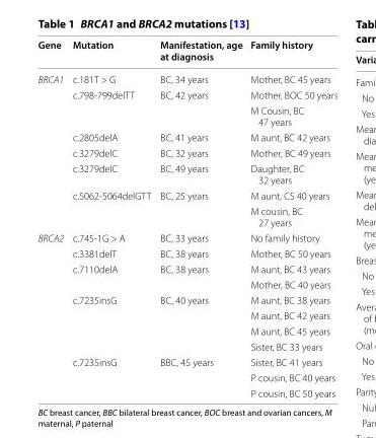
<table><thead><tr><td>Gene</td><td>Mutation</td><td>Manifestation, age at diagnosis</td><td>Family history</td></tr></thead><tbody><tr><td rowspan="8">BRCA1</td><td>c.181T &gt; G</td><td>BC, 34 years</td><td>Mother, BC 45 years</td></tr><tr><td>c.798-799delTT</td><td>BC, 42 years</td><td>Mother, BOC 50 years</td></tr><tr><td></td><td></td><td>M Cousin, BC 47 years</td></tr><tr><td>c.2805delA</td><td>BC, 41 years</td><td>M aunt, BC 42 years</td></tr><tr><td>c.3279delC</td><td>BC, 32 years</td><td>Mother, BC 49 years</td></tr><tr><td>c.3279delC</td><td>BC, 49 years</td><td>Daughter, BC 32 years</td></tr><tr><td>c.5062-5064delGTT</td><td>BC, 25 years</td><td>M aunt, CS 40 years</td></tr><tr><td></td><td></td><td>M cousin, BC 27 years</td></tr><tr><td rowspan="11">BRCA2</td><td>c.745-1G &gt; A</td><td>BC, 33 years</td><td>No family history</td></tr><tr><td>c.3381delT</td><td>BC, 38 years</td><td>Mother, BC 50 years</td></tr><tr><td>c.7110delA</td><td>BC, 38 years</td><td>M aunt, BC 43 years</td></tr><tr><td></td><td></td><td>Mother, BC 40 years</td></tr><tr><td>c.7235insG</td><td>BC, 40 years</td><td>M aunt, BC 38 years</td></tr><tr><td></td><td></td><td>M aunt, BC 42 years</td></tr><tr><td></td><td></td><td>M aunt, BC 45 years</td></tr><tr><td></td><td></td><td>Sister, BC 33 years</td></tr><tr><td>c.7235insG</td><td>BBC, 45 years</td><td>Sister, BC 41 years</td></tr><tr><td></td><td></td><td>P cousin, BC 40 years</td></tr><tr><td></td><td></td><td>P cousin, BC 50 years</td></tr></tbody></table>